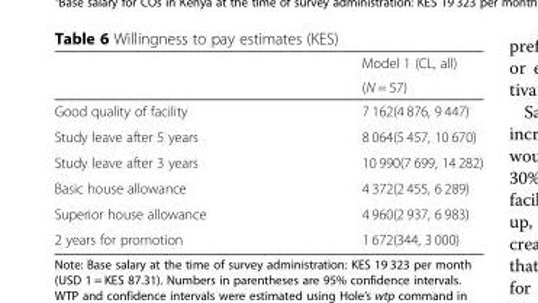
<table><thead><tr><td rowspan="2"></td><td rowspan="2">Model 1 (CL, all) (N = 57)</td></tr><tr></tr></thead><tbody><tr><td>Good quality of facility</td><td>7 162(4 876, 9 447)</td></tr><tr><td>Study leave after 5 years</td><td>8 064(5 457, 10 670)</td></tr><tr><td>Study leave after 3 years</td><td>10 990(7 699, 14 282)</td></tr><tr><td>Basic house allowance</td><td>4 372(2 455, 6 289)</td></tr><tr><td>Superior house allowance</td><td>4 960(2 937, 6 983)</td></tr><tr><td>2 years for promotion</td><td>1 672(344, 3 000)</td></tr></tbody></table>